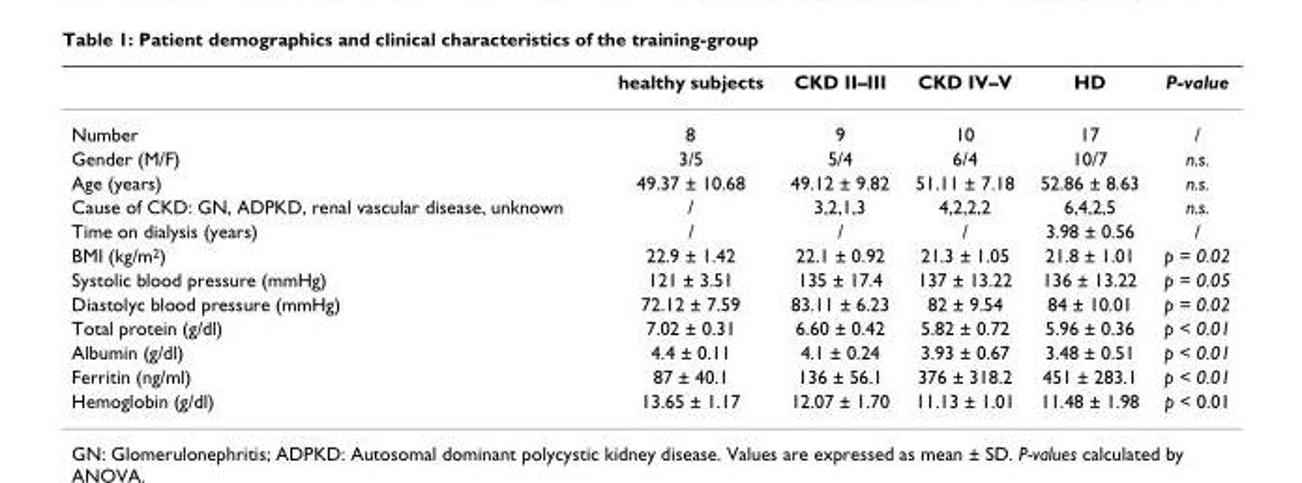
<table><thead><tr><td></td><td>healthy subjects</td><td>CKD II–III</td><td>CKD IV–V</td><td>HD</td><td>P-value</td></tr></thead><tbody><tr><td>Number</td><td>8</td><td>9</td><td>10</td><td>17</td><td>/</td></tr><tr><td>Gender (M/F)</td><td>3/5</td><td>5/4</td><td>6/4</td><td>10/7</td><td>n.s.</td></tr><tr><td>Age (years)</td><td>49.37 ± 10.68</td><td>49.12 ± 9.82</td><td>51.11 ± 7.18</td><td>52.86 ± 8.63</td><td>n.s.</td></tr><tr><td>Cause of CKD: GN, ADPKD, renal vascular disease, unknown</td><td>/</td><td>3,2,1,3</td><td>4,2,2,2</td><td>6,4,2,5</td><td>n.s.</td></tr><tr><td>Time on dialysis (years)</td><td>/</td><td>/</td><td>/</td><td>3.98 ± 0.56</td><td>/</td></tr><tr><td>BMI (kg/m<sup>2</sup>)</td><td>22.9 ± 1.42</td><td>22.1 ± 0.92</td><td>21.3 ± 1.05</td><td>21.8 ± 1.01</td><td>p = 0.02</td></tr><tr><td>Systolic blood pressure (mmHg)</td><td>121 ± 3.51</td><td>135 ± 17.4</td><td>137 ± 13.22</td><td>136 ± 13.22</td><td>p = 0.05</td></tr><tr><td>Diastolyc blood pressure (mmHg)</td><td>72.12 ± 7.59</td><td>83.11 ± 6.23</td><td>82 ± 9.54</td><td>84 ± 10.01</td><td>p = 0.02</td></tr><tr><td>Total protein (g/dl)</td><td>7.02 ± 0.31</td><td>6.60 ± 0.42</td><td>5.82 ± 0.72</td><td>5.96 ± 0.36</td><td>p &lt; 0.01</td></tr><tr><td>Albumin (g/dl)</td><td>4.4 ± 0.11</td><td>4.1 ± 0.24</td><td>3.93 ± 0.67</td><td>3.48 ± 0.51</td><td>p &lt; 0.01</td></tr><tr><td>Ferritin (ng/ml)</td><td>87 ± 40.1</td><td>136 ± 56.1</td><td>376 ± 318.2</td><td>451 ± 283.1</td><td>p &lt; 0.01</td></tr><tr><td>Hemoglobin (g/dl)</td><td>13.65 ± 1.17</td><td>12.07 ± 1.70</td><td>11.13 ± 1.01</td><td>11.48 ± 1.98</td><td>p &lt; 0.01</td></tr></tbody></table>